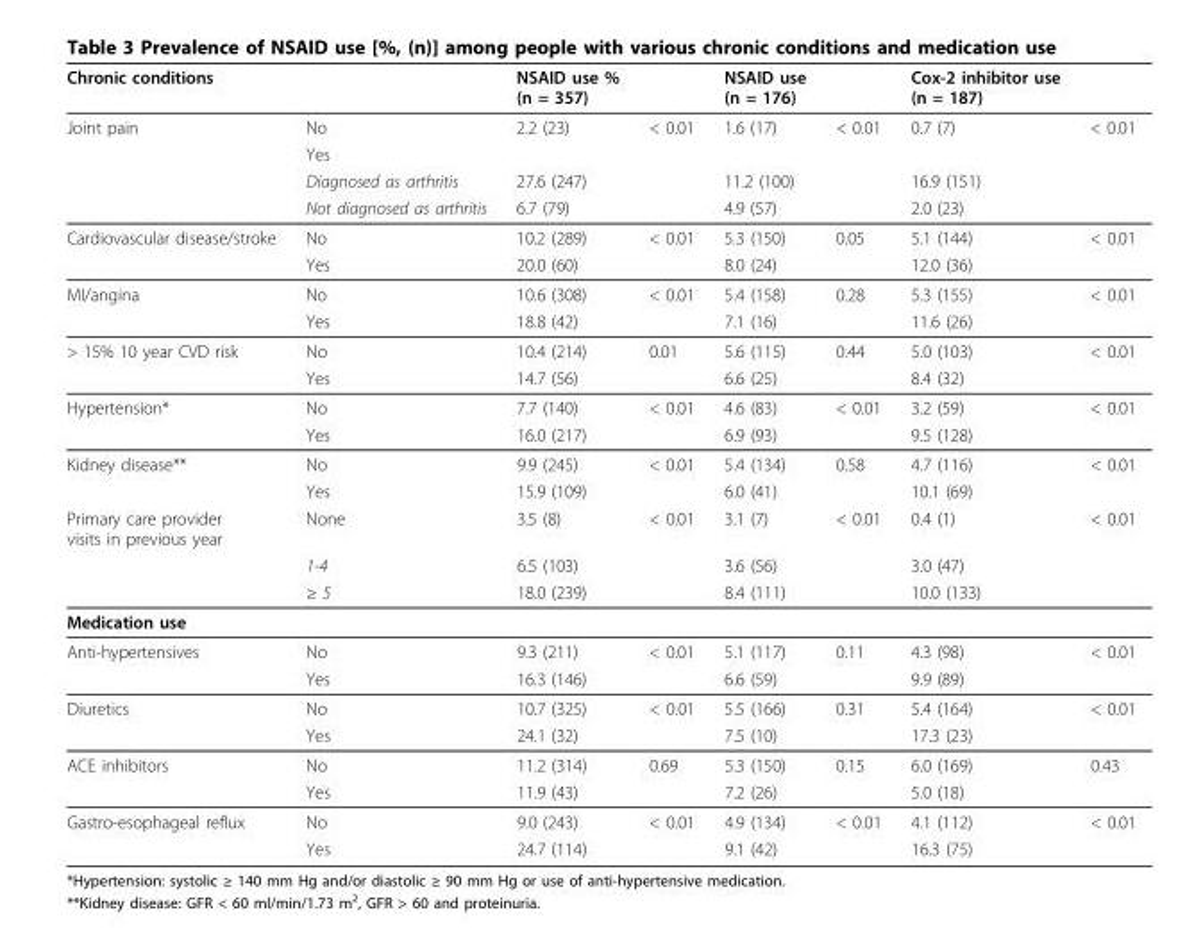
<table><thead><tr><td>Chronic conditions</td><td></td><td>NSAID use % (n = 357)</td><td></td><td>NSAID use (n = 176)</td><td></td><td>Cox-2 inhibitor use (n = 187)</td><td></td></tr></thead><tbody><tr><td rowspan="4">Joint pain</td><td>No</td><td>2.2 (23)</td><td>&lt; 0.01</td><td>1.6 (17)</td><td>&lt; 0.01</td><td>0.7 (7)</td><td>&lt; 0.01</td></tr><tr><td>Yes</td><td></td><td></td><td></td><td></td><td></td><td></td></tr><tr><td>Diagnosed as arthritis</td><td>27.6 (247)</td><td></td><td>11.2 (100)</td><td></td><td>16.9 (151)</td><td></td></tr><tr><td>Not diagnosed as arthritis</td><td>6.7 (79)</td><td></td><td>4.9 (57)</td><td></td><td>2.0 (23)</td><td></td></tr><tr><td rowspan="2">Cardiovascular disease/stroke</td><td>No</td><td>10.2 (289)</td><td>&lt; 0.01</td><td>5.3 (150)</td><td>0.05</td><td>5.1 (144)</td><td>&lt; 0.01</td></tr><tr><td>Yes</td><td>20.0 (60)</td><td></td><td>8.0 (24)</td><td></td><td>12.0 (36)</td><td></td></tr><tr><td rowspan="2">MI/angina</td><td>No</td><td>10.6 (308)</td><td>&lt; 0.01</td><td>5.4 (158)</td><td>0.28</td><td>5.3 (155)</td><td>&lt; 0.01</td></tr><tr><td>Yes</td><td>18.8 (42)</td><td></td><td>7.1 (16)</td><td></td><td>11.6 (26)</td><td></td></tr><tr><td rowspan="2">&gt; 15% 10 year CVD risk</td><td>No</td><td>10.4 (214)</td><td>0.01</td><td>5.6 (115)</td><td>0.44</td><td>5.0 (103)</td><td>&lt; 0.01</td></tr><tr><td>Yes</td><td>14.7 (56)</td><td></td><td>6.6 (25)</td><td></td><td>8.4 (32)</td><td></td></tr><tr><td rowspan="2">Hypertension*</td><td>No</td><td>7.7 (140)</td><td>&lt; 0.01</td><td>4.6 (83)</td><td>&lt; 0.01</td><td>3.2 (59)</td><td>&lt; 0.01</td></tr><tr><td>Yes</td><td>16.0 (217)</td><td></td><td>6.9 (93)</td><td></td><td>9.5 (128)</td><td></td></tr><tr><td rowspan="2">Kidney disease**</td><td>No</td><td>9.9 (245)</td><td>&lt; 0.01</td><td>5.4 (134)</td><td>0.58</td><td>4.7 (116)</td><td>&lt; 0.01</td></tr><tr><td>Yes</td><td>15.9 (109)</td><td></td><td>6.0 (41)</td><td></td><td>10.1 (69)</td><td></td></tr><tr><td rowspan="3">Primary care provider visits in previous year</td><td>None</td><td>3.5 (8)</td><td>&lt; 0.01</td><td>3.1 (7)</td><td>&lt; 0.01</td><td>0.4 (1)</td><td>&lt; 0.01</td></tr><tr><td>1-4</td><td>6.5 (103)</td><td></td><td>3.6 (56)</td><td></td><td>3.0 (47)</td><td></td></tr><tr><td>≥ 5</td><td>18.0 (239)</td><td></td><td>8.4 (111)</td><td></td><td>10.0 (133)</td><td></td></tr><tr><td colspan="8">Medication use</td></tr><tr><td rowspan="2">Anti-hypertensives</td><td>No</td><td>9.3 (211)</td><td>&lt; 0.01</td><td>5.1 (117)</td><td>0.11</td><td>4.3 (98)</td><td>&lt; 0.01</td></tr><tr><td>Yes</td><td>16.3 (146)</td><td></td><td>6.6 (59)</td><td></td><td>9.9 (89)</td><td></td></tr><tr><td rowspan="2">Diuretics</td><td>No</td><td>10.7 (325)</td><td>&lt; 0.01</td><td>5.5 (166)</td><td>0.31</td><td>5.4 (164)</td><td>&lt; 0.01</td></tr><tr><td>Yes</td><td>24.1 (32)</td><td></td><td>7.5 (10)</td><td></td><td>17.3 (23)</td><td></td></tr><tr><td rowspan="2">ACE inhibitors</td><td>No</td><td>11.2 (314)</td><td>0.69</td><td>5.3 (150)</td><td>0.15</td><td>6.0 (169)</td><td>0.43</td></tr><tr><td>Yes</td><td>11.9 (43)</td><td></td><td>7.2 (26)</td><td></td><td>5.0 (18)</td><td></td></tr><tr><td rowspan="2">Gastro-esophageal reflux</td><td>No</td><td>9.0 (243)</td><td>&lt; 0.01</td><td>4.9 (134)</td><td>&lt; 0.01</td><td>4.1 (112)</td><td>&lt; 0.01</td></tr><tr><td>Yes</td><td>24.7 (114)</td><td></td><td>9.1 (42)</td><td></td><td>16.3 (75)</td><td></td></tr></tbody></table>